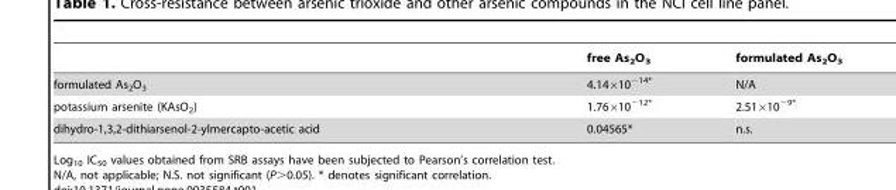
<table><thead><tr><td></td><td>free As<sub>2</sub>O<sub>3</sub></td><td>formulated As<sub>2</sub>O<sub>3</sub></td></tr></thead><tbody><tr><td>formulated As<sub>2</sub>O<sub>3</sub></td><td>4.14×10<sup>−14*</sup></td><td>N/A</td></tr><tr><td>potassium arsenite (KAsO<sub>2</sub>)</td><td>1.76×10<sup>−12*</sup></td><td>2.51×10<sup>−9*</sup></td></tr><tr><td>dihydro-1,3,2-dithiarsenol-2-ylmercapto-acetic acid</td><td>0.04565*</td><td>n.s.</td></tr></tbody></table>